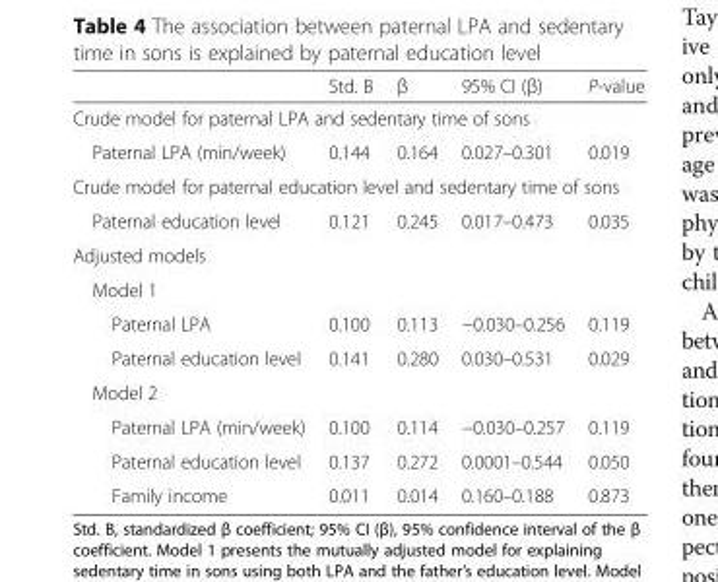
<table><thead><tr><td></td><td>Std. B</td><td>β</td><td>95% CI (β)</td><td>P-value</td></tr></thead><tbody><tr><td colspan="5">Crude model for paternal LPA and sedentary time of sons</td></tr><tr><td>Paternal LPA (min/week)</td><td>0.144</td><td>0.164</td><td>0.027–0.301</td><td>0.019</td></tr><tr><td colspan="5">Crude model for paternal education level and sedentary time of sons</td></tr><tr><td>Paternal education level</td><td>0.121</td><td>0.245</td><td>0.017–0.473</td><td>0.035</td></tr><tr><td colspan="5">Adjusted models</td></tr><tr><td colspan="5">Model 1</td></tr><tr><td>Paternal LPA</td><td>0.100</td><td>0.113</td><td>−0.030–0.256</td><td>0.119</td></tr><tr><td>Paternal education level</td><td>0.141</td><td>0.280</td><td>0.030–0.531</td><td>0.029</td></tr><tr><td colspan="5">Model 2</td></tr><tr><td>Paternal LPA (min/week)</td><td>0.100</td><td>0.114</td><td>−0.030–0.257</td><td>0.119</td></tr><tr><td>Paternal education level</td><td>0.137</td><td>0.272</td><td>0.0001–0.544</td><td>0.050</td></tr><tr><td>Family income</td><td>0.011</td><td>0.014</td><td>0.160–0.188</td><td>0.873</td></tr></tbody></table>